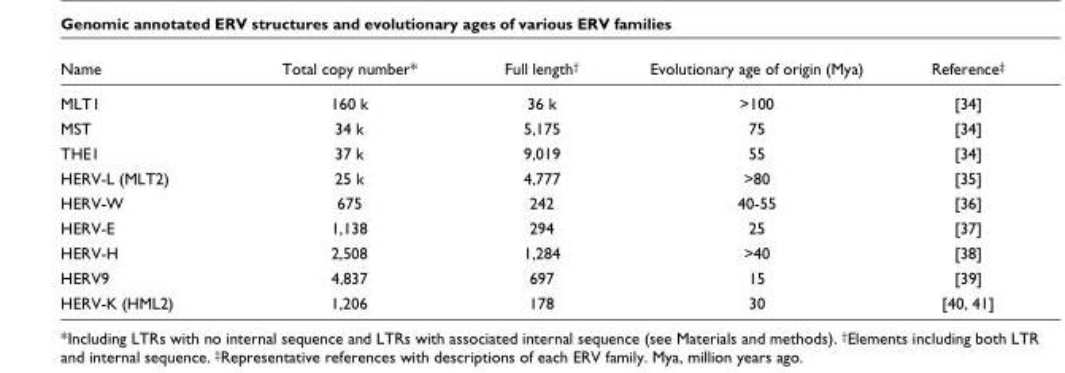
<table><thead><tr><td>Name</td><td>Total copy number*</td><td>Full length†</td><td>Evolutionary age of origin (Mya)</td><td>Reference‡</td></tr></thead><tbody><tr><td>MLT1</td><td>160 k</td><td>36 k</td><td>&gt;100</td><td>[34]</td></tr><tr><td>MST</td><td>34 k</td><td>5,175</td><td>75</td><td>[34]</td></tr><tr><td>THE1</td><td>37 k</td><td>9,019</td><td>55</td><td>[34]</td></tr><tr><td>HERV-L (MLT2)</td><td>25 k</td><td>4,777</td><td>&gt;80</td><td>[35]</td></tr><tr><td>HERV-W</td><td>675</td><td>242</td><td>40-55</td><td>[36]</td></tr><tr><td>HERV-E</td><td>1,138</td><td>294</td><td>25</td><td>[37]</td></tr><tr><td>HERV-H</td><td>2,508</td><td>1,284</td><td>&gt;40</td><td>[38]</td></tr><tr><td>HERV9</td><td>4,837</td><td>697</td><td>15</td><td>[39]</td></tr><tr><td>HERV-K (HML2)</td><td>1,206</td><td>178</td><td>30</td><td>[40, 41]</td></tr></tbody></table>